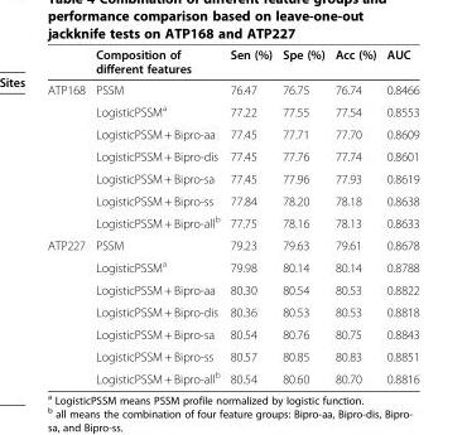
<table><thead><tr><td></td><td>Composition of different features</td><td>Sen (%)</td><td>Spe (%)</td><td>Acc (%)</td><td>AUC</td></tr></thead><tbody><tr><td rowspan="7">ATP168</td><td>PSSM</td><td>76.47</td><td>76.75</td><td>76.74</td><td>0.8466</td></tr><tr><td>LogisticPSSM<sup>a</sup></td><td>77.22</td><td>77.55</td><td>77.54</td><td>0.8553</td></tr><tr><td>LogisticPSSM + Bipro-aa</td><td>77.45</td><td>77.71</td><td>77.70</td><td>0.8609</td></tr><tr><td>LogisticPSSM + Bipro-dis</td><td>77.45</td><td>77.76</td><td>77.74</td><td>0.8601</td></tr><tr><td>LogisticPSSM + Bipro-sa</td><td>77.45</td><td>77.96</td><td>77.93</td><td>0.8619</td></tr><tr><td>LogisticPSSM + Bipro-ss</td><td>77.84</td><td>78.20</td><td>78.18</td><td>0.8638</td></tr><tr><td>LogisticPSSM + Bipro-all<sup>b</sup></td><td>77.75</td><td>78.16</td><td>78.13</td><td>0.8633</td></tr><tr><td rowspan="7">ATP227</td><td>PSSM</td><td>79.23</td><td>79.63</td><td>79.61</td><td>0.8678</td></tr><tr><td>LogisticPSSM<sup>a</sup></td><td>79.98</td><td>80.14</td><td>80.14</td><td>0.8788</td></tr><tr><td>LogisticPSSM + Bipro-aa</td><td>80.30</td><td>80.54</td><td>80.53</td><td>0.8822</td></tr><tr><td>LogisticPSSM + Bipro-dis</td><td>80.36</td><td>80.53</td><td>80.53</td><td>0.8818</td></tr><tr><td>LogisticPSSM + Bipro-sa</td><td>80.54</td><td>80.76</td><td>80.75</td><td>0.8843</td></tr><tr><td>LogisticPSSM + Bipro-ss</td><td>80.57</td><td>80.85</td><td>80.83</td><td>0.8851</td></tr><tr><td>LogisticPSSM + Bipro-all<sup>b</sup></td><td>80.54</td><td>80.60</td><td>80.70</td><td>0.8816</td></tr></tbody></table>